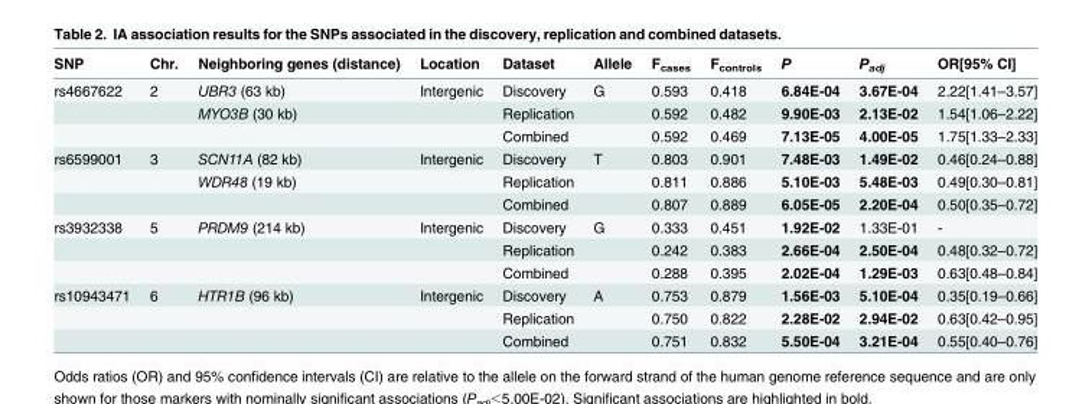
<table><thead><tr><td>SNP</td><td>Chr.</td><td>Neighboring genes (distance)</td><td>Location</td><td>Dataset</td><td>Allele</td><td>F<sub>cases</sub></td><td>F<sub>controls</sub></td><td>P</td><td>P<sub>adj</sub></td><td>OR[95% CI]</td></tr></thead><tbody><tr><td rowspan="3">rs4667622</td><td>2</td><td>UBR3 (63 kb)</td><td>Intergenic</td><td>Discovery</td><td>G</td><td>0.593</td><td>0.418</td><td>6.84E-04</td><td>3.67E-04</td><td>2.22[1.41–3.57]</td></tr><tr><td></td><td>MYO3B (30 kb)</td><td></td><td>Replication</td><td></td><td>0.592</td><td>0.482</td><td>9.90E-03</td><td>2.13E-02</td><td>1.54[1.06–2.22]</td></tr><tr><td></td><td></td><td></td><td>Combined</td><td></td><td>0.592</td><td>0.469</td><td>7.13E-05</td><td>4.00E-05</td><td>1.75[1.33–2.33]</td></tr><tr><td rowspan="3">rs6599001</td><td>3</td><td>SCN11A (82 kb)</td><td>Intergenic</td><td>Discovery</td><td>T</td><td>0.803</td><td>0.901</td><td>7.48E-03</td><td>1.49E-02</td><td>0.46[0.24–0.88]</td></tr><tr><td></td><td>WDR48 (19 kb)</td><td></td><td>Replication</td><td></td><td>0.811</td><td>0.886</td><td>5.10E-03</td><td>5.48E-03</td><td>0.49[0.30–0.81]</td></tr><tr><td></td><td></td><td></td><td>Combined</td><td></td><td>0.807</td><td>0.889</td><td>6.05E-05</td><td>2.20E-04</td><td>0.50[0.35–0.72]</td></tr><tr><td rowspan="3">rs3932338</td><td>5</td><td>PRDM9 (214 kb)</td><td>Intergenic</td><td>Discovery</td><td>G</td><td>0.333</td><td>0.451</td><td>1.92E-02</td><td>1.33E-01</td><td>-</td></tr><tr><td></td><td></td><td></td><td>Replication</td><td></td><td>0.242</td><td>0.383</td><td>2.66E-04</td><td>2.50E-04</td><td>0.48[0.32–0.72]</td></tr><tr><td></td><td></td><td></td><td>Combined</td><td></td><td>0.288</td><td>0.395</td><td>2.02E-04</td><td>1.29E-03</td><td>0.63[0.48–0.84]</td></tr><tr><td rowspan="3">rs10943471</td><td>6</td><td>HTR1B (96 kb)</td><td>Intergenic</td><td>Discovery</td><td>A</td><td>0.753</td><td>0.879</td><td>1.56E-03</td><td>5.10E-04</td><td>0.35[0.19–0.66]</td></tr><tr><td></td><td></td><td></td><td>Replication</td><td></td><td>0.750</td><td>0.822</td><td>2.28E-02</td><td>2.94E-02</td><td>0.63[0.42–0.95]</td></tr><tr><td></td><td></td><td></td><td>Combined</td><td></td><td>0.751</td><td>0.832</td><td>5.50E-04</td><td>3.21E-04</td><td>0.55[0.40–0.76]</td></tr></tbody></table>